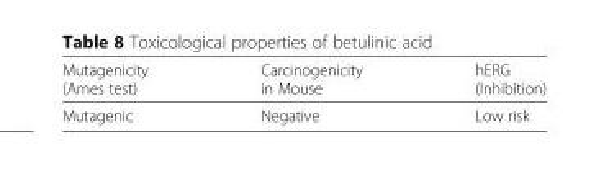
<table><thead><tr><td>Mutagenicity (Ames test)</td><td>Carcinogenicity in Mouse</td><td>hERG (Inhibition)</td></tr></thead><tbody><tr><td>Mutagenic</td><td>Negative</td><td>Low risk</td></tr></tbody></table>